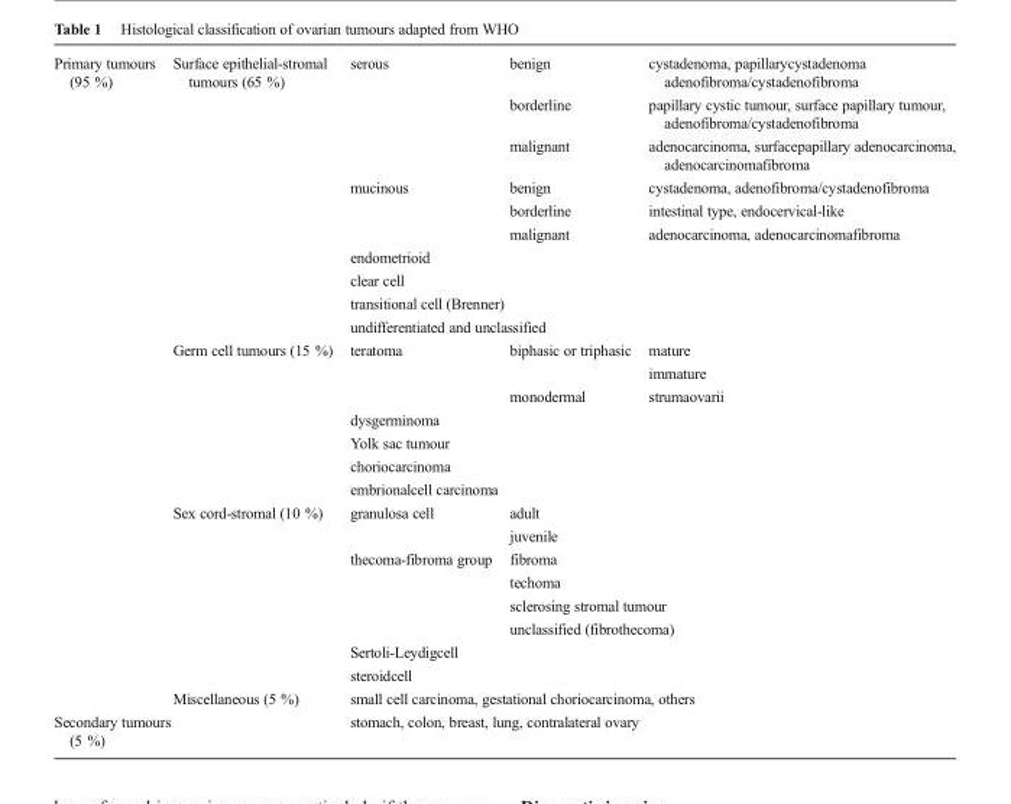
<table><tbody><tr><td rowspan="26">Primary tumours (95 %)</td><td rowspan="10">Surface epithelial-stromal tumours (65 %)</td><td rowspan="3">serous</td><td>benign</td><td>cystadenoma, papillarycystadenoma adenofibroma/cystadenofibroma</td></tr><tr><td>borderline</td><td>papillary cystic tumour, surface papillary tumour, adenofibroma/cystadenofibroma</td></tr><tr><td>malignant</td><td>adenocarcinoma, surfacepapillary adenocarcinoma, adenocarcinomafibroma</td></tr><tr><td rowspan="3">mucinous</td><td>benign</td><td>cystadenoma, adenofibroma/cystadenofibroma</td></tr><tr><td>borderline</td><td>intestinal type, endocervical-like</td></tr><tr><td>malignant</td><td>adenocarcinoma, adenocarcinomafibroma</td></tr><tr><td colspan="3">endometrioid</td></tr><tr><td colspan="3">clear cell</td></tr><tr><td colspan="3">transitional cell (Brenner)</td></tr><tr><td colspan="3">undifferentiated and unclassified</td></tr><tr><td rowspan="7">Germ cell tumours (15 %)</td><td rowspan="3">teratoma</td><td rowspan="2">biphasic or triphasic</td><td>mature</td></tr><tr><td>immature</td></tr><tr><td>monodermal</td><td>strumaovarii</td></tr><tr><td colspan="3">dysgerminoma</td></tr><tr><td colspan="3">Yolk sac tumour</td></tr><tr><td colspan="3">choriocarcinoma</td></tr><tr><td colspan="3">embrionalcell carcinoma</td></tr><tr><td rowspan="8">Sex cord-stromal (10 %)</td><td rowspan="2">granulosa cell</td><td colspan="2">adult</td></tr><tr><td colspan="2">juvenile</td></tr><tr><td rowspan="4">thecoma-fibroma group</td><td colspan="2">fibroma</td></tr><tr><td colspan="2">techoma</td></tr><tr><td colspan="2">sclerosing stromal tumour</td></tr><tr><td colspan="2">unclassified (fibrothecoma)</td></tr><tr><td colspan="3">Sertoli-Leydigcell</td></tr><tr><td colspan="3">steroidcell</td></tr><tr><td>Miscellaneous (5 %)</td><td colspan="3">small cell carcinoma, gestational choriocarcinoma, others</td></tr><tr><td colspan="2">Secondary tumours (5 %)</td><td colspan="3">stomach, colon, breast, lung, contralateral ovary</td></tr></tbody></table>